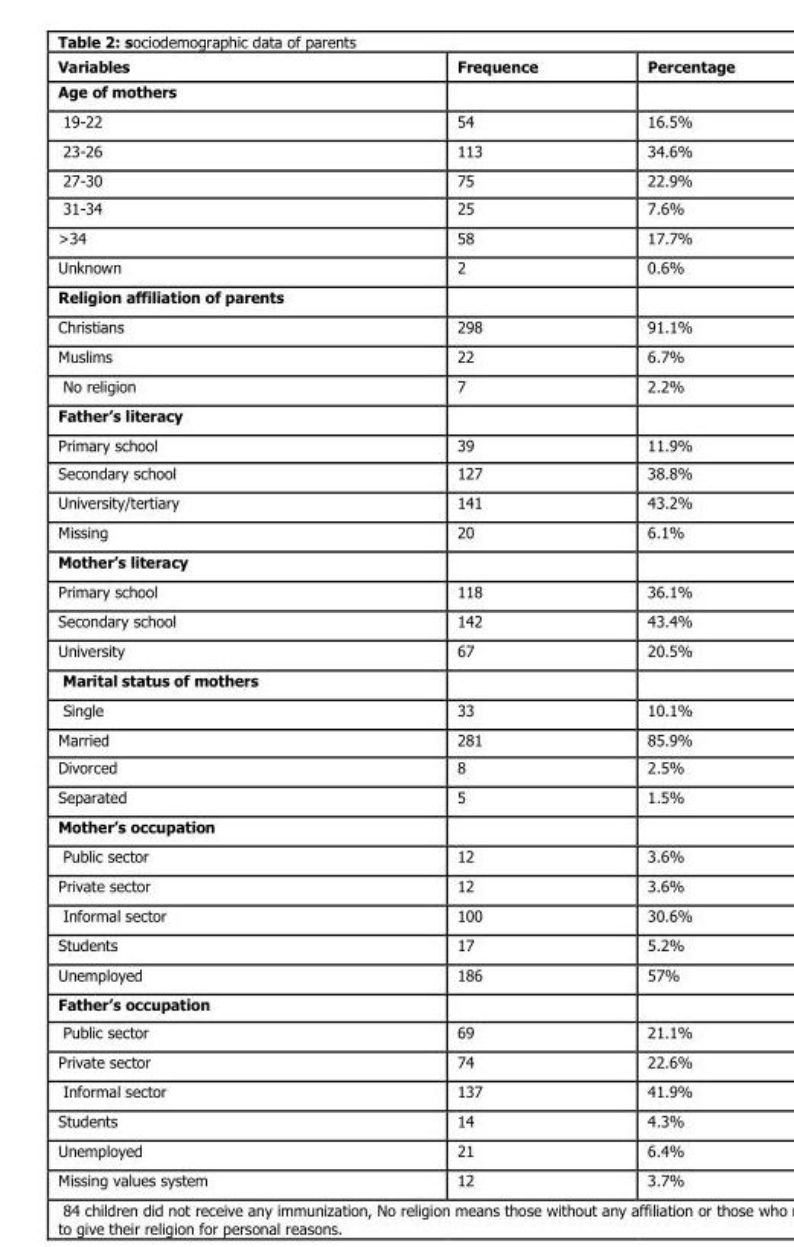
<table><thead><tr><td>Variables</td><td>Frequence</td><td>Percentage</td></tr></thead><tbody><tr><td colspan="3">Age of mothers</td></tr><tr><td>19-22</td><td>54</td><td>16.5%</td></tr><tr><td>23-26</td><td>113</td><td>34.6%</td></tr><tr><td>27-30</td><td>75</td><td>22.9%</td></tr><tr><td>31-34</td><td>25</td><td>7.6%</td></tr><tr><td>&gt;34</td><td>58</td><td>17.7%</td></tr><tr><td>Unknown</td><td>2</td><td>0.6%</td></tr><tr><td colspan="3">Religion affiliation of parents</td></tr><tr><td>Christians</td><td>298</td><td>91.1%</td></tr><tr><td>Muslims</td><td>22</td><td>6.7%</td></tr><tr><td>No religion</td><td>7</td><td>2.2%</td></tr><tr><td colspan="3">Father’s literacy</td></tr><tr><td>Primary school</td><td>39</td><td>11.9%</td></tr><tr><td>Secondary school</td><td>127</td><td>38.8%</td></tr><tr><td>University/tertiary</td><td>141</td><td>43.2%</td></tr><tr><td>Missing</td><td>20</td><td>6.1%</td></tr><tr><td colspan="3">Mother’s literacy</td></tr><tr><td>Primary school</td><td>118</td><td>36.1%</td></tr><tr><td>Secondary school</td><td>142</td><td>43.4%</td></tr><tr><td>University</td><td>67</td><td>20.5%</td></tr><tr><td colspan="3">Marital status of mothers</td></tr><tr><td>Single</td><td>33</td><td>10.1%</td></tr><tr><td>Married</td><td>281</td><td>85.9%</td></tr><tr><td>Divorced</td><td>8</td><td>2.5%</td></tr><tr><td>Separated</td><td>5</td><td>1.5%</td></tr><tr><td colspan="3">Mother’s occupation</td></tr><tr><td>Public sector</td><td>12</td><td>3.6%</td></tr><tr><td>Private sector</td><td>12</td><td>3.6%</td></tr><tr><td>Informal sector</td><td>100</td><td>30.6%</td></tr><tr><td>Students</td><td>17</td><td>5.2%</td></tr><tr><td>Unemployed</td><td>186</td><td>57%</td></tr><tr><td colspan="3">Father’s occupation</td></tr><tr><td>Public sector</td><td>69</td><td>21.1%</td></tr><tr><td>Private sector</td><td>74</td><td>22.6%</td></tr><tr><td>Informal sector</td><td>137</td><td>41.9%</td></tr><tr><td>Students</td><td>14</td><td>4.3%</td></tr><tr><td>Unemployed</td><td>21</td><td>6.4%</td></tr><tr><td>Missing values system</td><td>12</td><td>3.7%</td></tr></tbody></table>